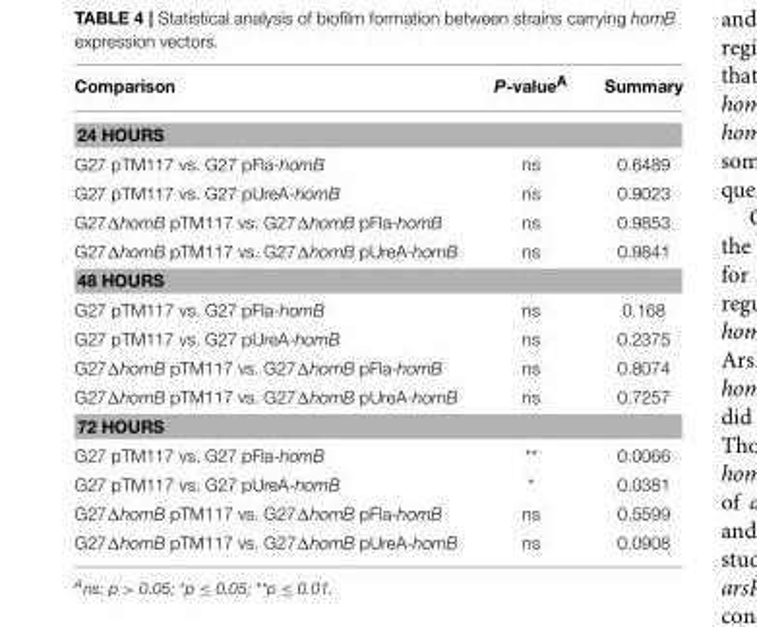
<table><thead><tr><td>Comparison</td><td>P-value<sup>A</sup></td><td>Summary</td></tr></thead><tbody><tr><td colspan="3">24 HOURS</td></tr><tr><td>G27 pTM117 vs. G27 pFla-homB</td><td>ns</td><td>0.6489</td></tr><tr><td>G27 pTM117 vs. G27 pUreA-homB</td><td>ns</td><td>0.9023</td></tr><tr><td>G27ΔhomB pTM117 vs. G27ΔhomB pFla-homB</td><td>ns</td><td>0.9853</td></tr><tr><td>G27ΔhomB pTM117 vs. G27ΔhomB pUreA-homB</td><td>ns</td><td>0.9841</td></tr><tr><td colspan="3">48 HOURS</td></tr><tr><td>G27 pTM117 vs. G27 pFla-homB</td><td>ns</td><td>0.168</td></tr><tr><td>G27 pTM117 vs. G27 pUreA-homB</td><td>ns</td><td>0.2375</td></tr><tr><td>G27ΔhomB pTM117 vs. G27ΔhomB pFla-homB</td><td>ns</td><td>0.8074</td></tr><tr><td>G27ΔhomB pTM117 vs. G27ΔhomB pUreA-homB</td><td>ns</td><td>0.7257</td></tr><tr><td colspan="3">72 HOURS</td></tr><tr><td>G27 pTM117 vs. G27 pFla-homB</td><td>**</td><td>0.0066</td></tr><tr><td>G27 pTM117 vs. G27 pUreA-homB</td><td>*</td><td>0.0381</td></tr><tr><td>G27ΔhomB pTM117 vs. G27ΔhomB pFla-homB</td><td>ns</td><td>0.5599</td></tr><tr><td>G27ΔhomB pTM117 vs. G27ΔhomB pUreA-homB</td><td>ns</td><td>0.0908</td></tr></tbody></table>